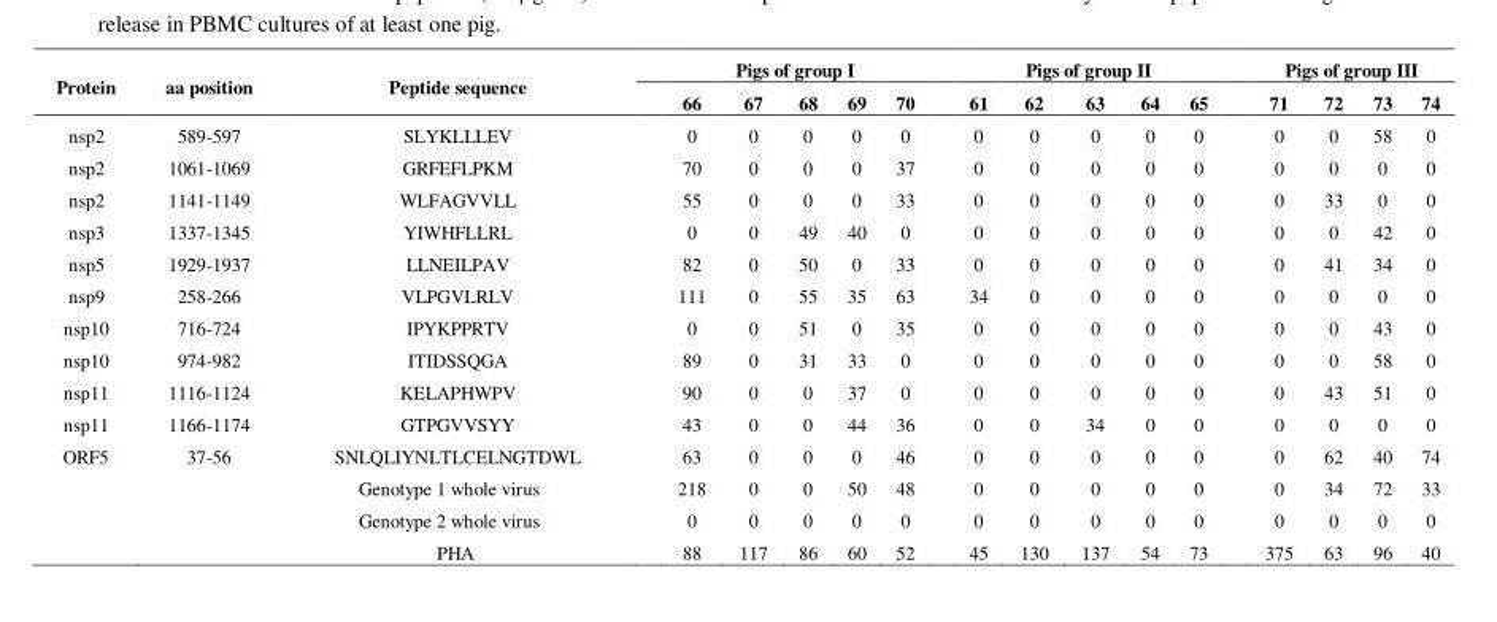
<table><thead><tr><td rowspan="2">Protein</td><td rowspan="2">aa position</td><td rowspan="2">Peptide sequence</td><td colspan="5">Pigs of group I</td><td colspan="5">Pigs of group II</td><td colspan="4">Pigs of group III</td></tr><tr><td>66</td><td>67</td><td>68</td><td>69</td><td>70</td><td>61</td><td>62</td><td>63</td><td>64</td><td>65</td><td>71</td><td>72</td><td>73</td><td>74</td></tr></thead><tbody><tr><td>nsp2</td><td>589-597</td><td>SLYKLLLEV</td><td>0</td><td>0</td><td>0</td><td>0</td><td>0</td><td>0</td><td>0</td><td>0</td><td>0</td><td>0</td><td>0</td><td>0</td><td>58</td><td>0</td></tr><tr><td>nsp2</td><td>1061-1069</td><td>GRFEFLPKM</td><td>70</td><td>0</td><td>0</td><td>0</td><td>37</td><td>0</td><td>0</td><td>0</td><td>0</td><td>0</td><td>0</td><td>0</td><td>0</td><td>0</td></tr><tr><td>nsp2</td><td>1141-1149</td><td>WLFAGVVLL</td><td>55</td><td>0</td><td>0</td><td>0</td><td>33</td><td>0</td><td>0</td><td>0</td><td>0</td><td>0</td><td>0</td><td>33</td><td>0</td><td>0</td></tr><tr><td>nsp3</td><td>1337-1345</td><td>YIWHFLLRL</td><td>0</td><td>0</td><td>49</td><td>40</td><td>0</td><td>0</td><td>0</td><td>0</td><td>0</td><td>0</td><td>0</td><td>0</td><td>42</td><td>0</td></tr><tr><td>nsp5</td><td>1929-1937</td><td>LLNEILPAV</td><td>82</td><td>0</td><td>50</td><td>0</td><td>33</td><td>0</td><td>0</td><td>0</td><td>0</td><td>0</td><td>0</td><td>41</td><td>34</td><td>0</td></tr><tr><td>nsp9</td><td>258-266</td><td>VLPGVLRLV</td><td>111</td><td>0</td><td>55</td><td>35</td><td>63</td><td>34</td><td>0</td><td>0</td><td>0</td><td>0</td><td>0</td><td>0</td><td>0</td><td>0</td></tr><tr><td>nsp10</td><td>716-724</td><td>IPYKPPRTV</td><td>0</td><td>0</td><td>51</td><td>0</td><td>35</td><td>0</td><td>0</td><td>0</td><td>0</td><td>0</td><td>0</td><td>0</td><td>43</td><td>0</td></tr><tr><td>nsp10</td><td>974-982</td><td>ITIDSSQGA</td><td>89</td><td>0</td><td>31</td><td>33</td><td>0</td><td>0</td><td>0</td><td>0</td><td>0</td><td>0</td><td>0</td><td>0</td><td>58</td><td>0</td></tr><tr><td>nsp11</td><td>1116-1124</td><td>KELAPHWPV</td><td>90</td><td>0</td><td>0</td><td>37</td><td>0</td><td>0</td><td>0</td><td>0</td><td>0</td><td>0</td><td>0</td><td>43</td><td>51</td><td>0</td></tr><tr><td>nsp11</td><td>1166-1174</td><td>GTPGVVSYY</td><td>43</td><td>0</td><td>0</td><td>44</td><td>36</td><td>0</td><td>0</td><td>34</td><td>0</td><td>0</td><td>0</td><td>0</td><td>0</td><td>0</td></tr><tr><td rowspan="4">ORF5</td><td>37-56</td><td>SNLQLIYNLTLCELNGTDWL</td><td>63</td><td>0</td><td>0</td><td>0</td><td>46</td><td>0</td><td>0</td><td>0</td><td>0</td><td>0</td><td>0</td><td>62</td><td>40</td><td>74</td></tr><tr><td colspan="2">Genotype 1 whole virus</td><td>218</td><td>0</td><td>0</td><td>50</td><td>48</td><td>0</td><td>0</td><td>0</td><td>0</td><td>0</td><td>0</td><td>34</td><td>72</td><td>33</td></tr><tr><td colspan="2">Genotype 2 whole virus</td><td>0</td><td>0</td><td>0</td><td>0</td><td>0</td><td>0</td><td>0</td><td>0</td><td>0</td><td>0</td><td>0</td><td>0</td><td>0</td><td>0</td></tr><tr><td colspan="2">PHA</td><td>88</td><td>117</td><td>86</td><td>60</td><td>52</td><td>45</td><td>130</td><td>137</td><td>54</td><td>73</td><td>375</td><td>63</td><td>96</td><td>40</td></tr></tbody></table>